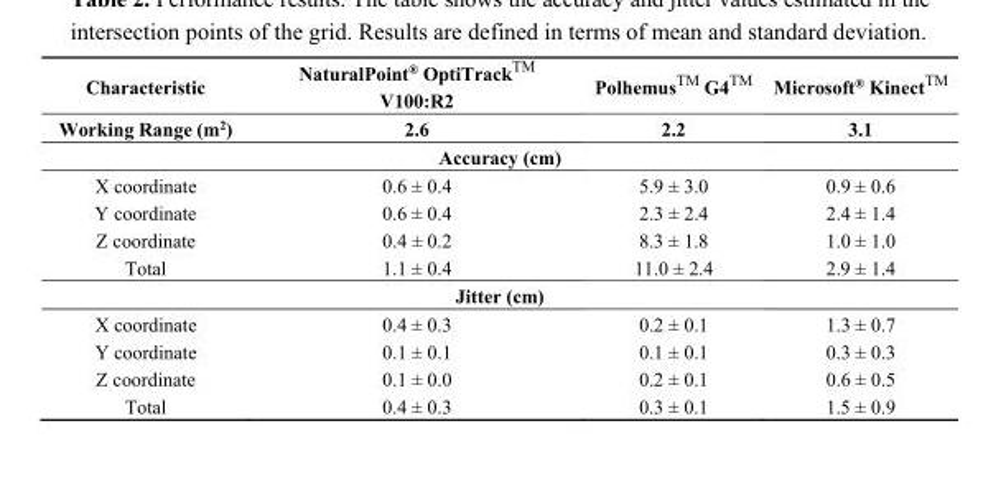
<table><thead><tr><td rowspan="2">Characteristic Working Range (m<sup>2</sup>)</td><td rowspan="2">NaturalPoint<sup>®</sup> OptiTrack<sup>TM</sup> V100:R2 2.6</td><td rowspan="2">Polhemus<sup>TM</sup> G4<sup>TM</sup> 2.2</td><td rowspan="2">Microsoft<sup>®</sup> Kinect<sup>TM</sup> 3.1</td></tr><tr></tr></thead><tbody><tr><td colspan="4">Accuracy (cm)</td></tr><tr><td>X coordinate</td><td>0.6 ± 0.4</td><td>5.9 ± 3.0</td><td>0.9 ± 0.6</td></tr><tr><td>Y coordinate</td><td>0.6 ± 0.4</td><td>2.3 ± 2.4</td><td>2.4 ± 1.4</td></tr><tr><td>Z coordinate</td><td>0.4 ± 0.2</td><td>8.3 ± 1.8</td><td>1.0 ± 1.0</td></tr><tr><td>Total</td><td>1.1 ± 0.4</td><td>11.0 ± 2.4</td><td>2.9 ± 1.4</td></tr><tr><td colspan="4">Jitter (cm)</td></tr><tr><td>X coordinate</td><td>0.4 ± 0.3</td><td>0.2 ± 0.1</td><td>1.3 ± 0.7</td></tr><tr><td>Y coordinate</td><td>0.1 ± 0.1</td><td>0.1 ± 0.1</td><td>0.3 ± 0.3</td></tr><tr><td>Z coordinate</td><td>0.1 ± 0.0</td><td>0.2 ± 0.1</td><td>0.6 ± 0.5</td></tr><tr><td>Total</td><td>0.4 ± 0.3</td><td>0.3 ± 0.1</td><td>1.5 ± 0.9</td></tr></tbody></table>